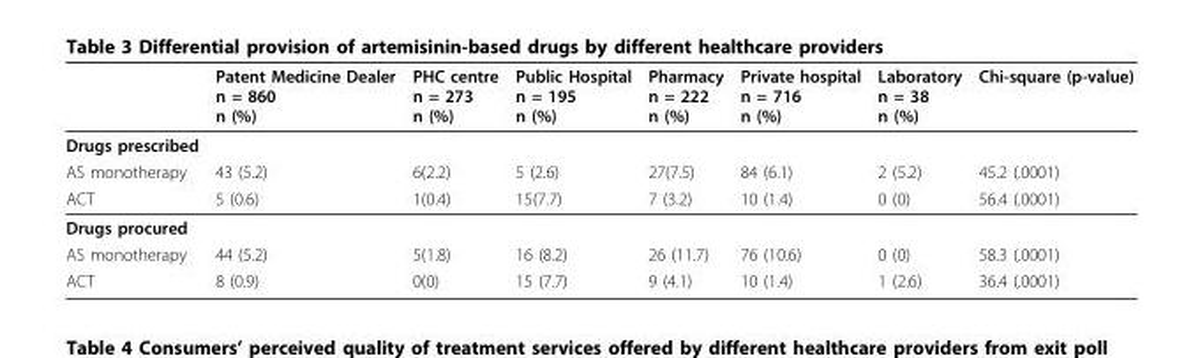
<table><thead><tr><td></td><td>Patent Medicine Dealer n = 860 n (%)</td><td>PHC centre n = 273 n (%)</td><td>Public Hospital n = 195 n (%)</td><td>Pharmacy n = 222 n (%)</td><td>Private hospital n = 716 n (%)</td><td>Laboratory n = 38 n (%)</td><td>Chi-square (p-value)</td></tr></thead><tbody><tr><td colspan="8">Drugs prescribed</td></tr><tr><td>AS monotherapy</td><td>43 (5.2)</td><td>6(2.2)</td><td>5 (2.6)</td><td>27(7.5)</td><td>84 (6.1)</td><td>2 (5.2)</td><td>45.2 (.0001)</td></tr><tr><td>ACT</td><td>5 (0.6)</td><td>1(0.4)</td><td>15(7.7)</td><td>7 (3.2)</td><td>10 (1.4)</td><td>0 (0)</td><td>56.4 (.0001)</td></tr><tr><td colspan="8">Drugs procured</td></tr><tr><td>AS monotherapy</td><td>44 (5.2)</td><td>5(1.8)</td><td>16 (8.2)</td><td>26 (11.7)</td><td>76 (10.6)</td><td>0 (0)</td><td>58.3 (.0001)</td></tr><tr><td>ACT</td><td>8 (0.9)</td><td>0(0)</td><td>15 (7.7)</td><td>9 (4.1)</td><td>10 (1.4)</td><td>1 (2.6)</td><td>36.4 (.0001)</td></tr></tbody></table>